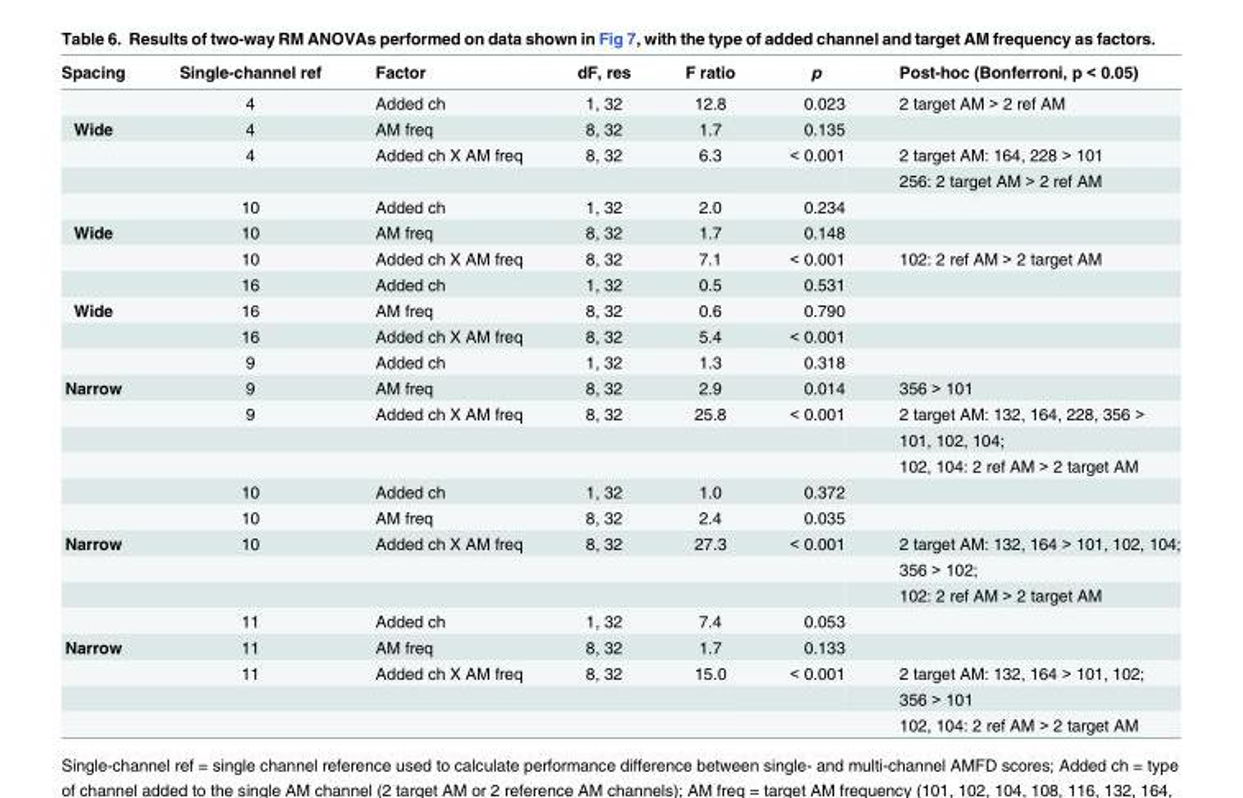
<table><thead><tr><td>Spacing</td><td>Single-channel ref</td><td>Factor</td><td>dF, res</td><td>F ratio</td><td>p</td><td>Post-hoc (Bonferroni, p &lt; 0.05)</td></tr></thead><tbody><tr><td></td><td>4</td><td>Added ch</td><td>1, 32</td><td>12.8</td><td>0.023</td><td>2 target AM &gt; 2 ref AM</td></tr><tr><td rowspan="4">Wide</td><td>4</td><td>AM freq</td><td>8, 32</td><td>1.7</td><td>0.135</td><td></td></tr><tr><td>4</td><td>Added ch X AM freq</td><td>8, 32</td><td>6.3</td><td>&lt; 0.001</td><td>2 target AM: 164, 228 &gt; 101</td></tr><tr><td></td><td></td><td></td><td></td><td></td><td>256: 2 target AM &gt; 2 ref AM</td></tr><tr><td>10</td><td>Added ch</td><td>1, 32</td><td>2.0</td><td>0.234</td><td></td></tr><tr><td rowspan="3">Wide</td><td>10</td><td>AM freq</td><td>8, 32</td><td>1.7</td><td>0.148</td><td></td></tr><tr><td>10</td><td>Added ch X AM freq</td><td>8, 32</td><td>7.1</td><td>&lt; 0.001</td><td>102: 2 ref AM &gt; 2 target AM</td></tr><tr><td>16</td><td>Added ch</td><td>1, 32</td><td>0.5</td><td>0.531</td><td></td></tr><tr><td rowspan="3">Wide</td><td>16</td><td>AM freq</td><td>8, 32</td><td>0.6</td><td>0.790</td><td></td></tr><tr><td>16</td><td>Added ch X AM freq</td><td>8, 32</td><td>5.4</td><td>&lt; 0.001</td><td></td></tr><tr><td>9</td><td>Added ch</td><td>1, 32</td><td>1.3</td><td>0.318</td><td></td></tr><tr><td rowspan="6">Narrow</td><td>9</td><td>AM freq</td><td>8, 32</td><td>2.9</td><td>0.014</td><td>356 &gt; 101</td></tr><tr><td>9</td><td>Added ch X AM freq</td><td>8, 32</td><td>25.8</td><td>&lt; 0.001</td><td>2 target AM: 132, 164, 228, 356 &gt;</td></tr><tr><td></td><td></td><td></td><td></td><td></td><td>101, 102, 104;</td></tr><tr><td></td><td></td><td></td><td></td><td></td><td>102, 104: 2 ref AM &gt; 2 target AM</td></tr><tr><td>10</td><td>Added ch</td><td>1, 32</td><td>1.0</td><td>0.372</td><td></td></tr><tr><td>10</td><td>AM freq</td><td>8, 32</td><td>2.4</td><td>0.035</td><td></td></tr><tr><td rowspan="4">Narrow</td><td>10</td><td>Added ch X AM freq</td><td>8, 32</td><td>27.3</td><td>&lt; 0.001</td><td>2 target AM: 132, 164 &gt; 101, 102, 104;</td></tr><tr><td></td><td></td><td></td><td></td><td></td><td>356 &gt; 102;</td></tr><tr><td></td><td></td><td></td><td></td><td></td><td>102: 2 ref AM &gt; 2 target AM</td></tr><tr><td>11</td><td>Added ch</td><td>1, 32</td><td>7.4</td><td>0.053</td><td></td></tr><tr><td rowspan="4">Narrow</td><td>11</td><td>AM freq</td><td>8, 32</td><td>1.7</td><td>0.133</td><td></td></tr><tr><td>11</td><td>Added ch X AM freq</td><td>8, 32</td><td>15.0</td><td>&lt; 0.001</td><td>2 target AM: 132, 164 &gt; 101, 102;</td></tr><tr><td></td><td></td><td></td><td></td><td></td><td>356 &gt; 101</td></tr><tr><td></td><td></td><td></td><td></td><td></td><td>102, 104: 2 ref AM &gt; 2 target AM</td></tr></tbody></table>